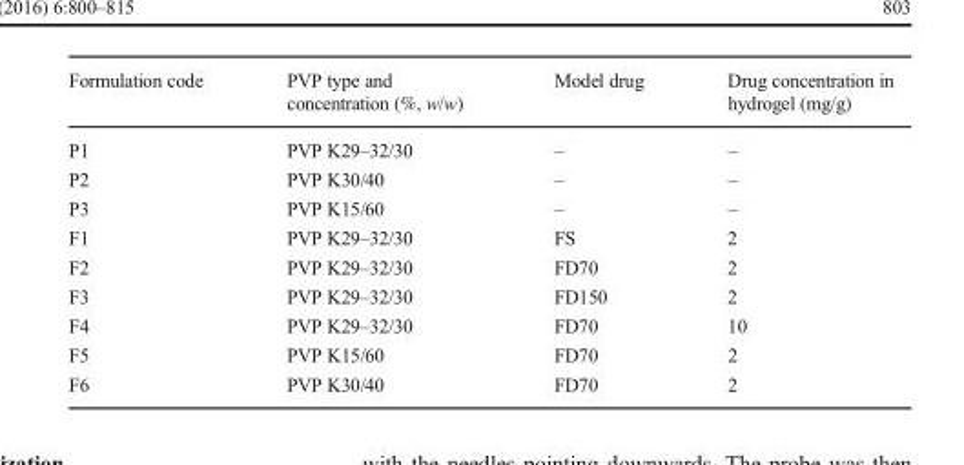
<table><thead><tr><td>Formulation code</td><td>PVP type and concentration (%, w/w)</td><td>Model drug</td><td>Drug concentration in hydrogel (mg/g)</td></tr></thead><tbody><tr><td>P1</td><td>PVP K29–32/30</td><td>–</td><td>–</td></tr><tr><td>P2</td><td>PVP K30/40</td><td>–</td><td>–</td></tr><tr><td>P3</td><td>PVP K15/60</td><td>–</td><td>–</td></tr><tr><td>F1</td><td>PVP K29–32/30</td><td>FS</td><td>2</td></tr><tr><td>F2</td><td>PVP K29–32/30</td><td>FD70</td><td>2</td></tr><tr><td>F3</td><td>PVP K29–32/30</td><td>FD150</td><td>2</td></tr><tr><td>F4</td><td>PVP K29–32/30</td><td>FD70</td><td>10</td></tr><tr><td>F5</td><td>PVP K15/60</td><td>FD70</td><td>2</td></tr><tr><td>F6</td><td>PVP K30/40</td><td>FD70</td><td>2</td></tr></tbody></table>